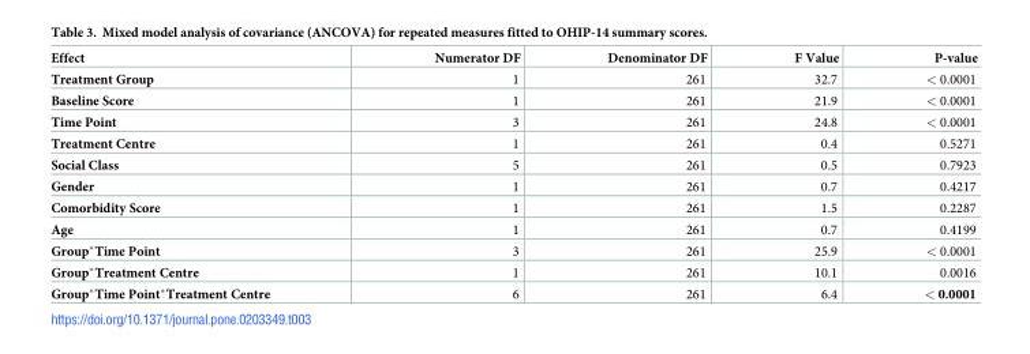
<table><thead><tr><td>Effect</td><td>Numerator DF</td><td>Denominator DF</td><td>F Value</td><td>P-value</td></tr></thead><tbody><tr><td>Treatment Group</td><td>1</td><td>261</td><td>32.7</td><td>&lt; 0.0001</td></tr><tr><td>Baseline Score</td><td>1</td><td>261</td><td>21.9</td><td>&lt; 0.0001</td></tr><tr><td>Time Point</td><td>3</td><td>261</td><td>24.8</td><td>&lt; 0.0001</td></tr><tr><td>Treatment Centre</td><td>1</td><td>261</td><td>0.4</td><td>0.5271</td></tr><tr><td>Social Class</td><td>5</td><td>261</td><td>0.5</td><td>0.7923</td></tr><tr><td>Gender</td><td>1</td><td>261</td><td>0.7</td><td>0.4217</td></tr><tr><td>Comorbidity Score</td><td>1</td><td>261</td><td>1.5</td><td>0.2287</td></tr><tr><td>Age</td><td>1</td><td>261</td><td>0.7</td><td>0.4199</td></tr><tr><td>Group*Time Point</td><td>3</td><td>261</td><td>25.9</td><td>&lt; 0.0001</td></tr><tr><td>Group*Treatment Centre</td><td>1</td><td>261</td><td>10.1</td><td>0.0016</td></tr><tr><td>Group*Time Point*Treatment Centre</td><td>6</td><td>261</td><td>6.4</td><td>&lt; 0.0001</td></tr></tbody></table>